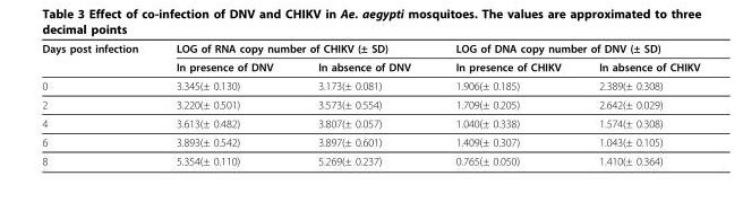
<table><thead><tr><td rowspan="2">Days post infection</td><td colspan="2">LOG of RNA copy number of CHIKV (± SD)</td><td colspan="2">LOG of DNA copy number of DNV (± SD)</td></tr><tr><td>In presence of DNV</td><td>In absence of DNV</td><td>In presence of CHIKV</td><td>In absence of CHIKV</td></tr></thead><tbody><tr><td>0</td><td>3.345(± 0.130)</td><td>3.173(± 0.081)</td><td>1.906(± 0.185)</td><td>2.389(± 0.308)</td></tr><tr><td>2</td><td>3.220(± 0.501)</td><td>3.573(± 0.554)</td><td>1.709(± 0.205)</td><td>2.642(± 0.029)</td></tr><tr><td>4</td><td>3.613(± 0.482)</td><td>3.807(± 0.057)</td><td>1.040(± 0.338)</td><td>1.574(± 0.308)</td></tr><tr><td>6</td><td>3.893(± 0.542)</td><td>3.897(± 0.601)</td><td>1.409(± 0.307)</td><td>1.043(± 0.105)</td></tr><tr><td>8</td><td>5.354(± 0.110)</td><td>5.269(± 0.237)</td><td>0.765(± 0.050)</td><td>1.410(± 0.364)</td></tr></tbody></table>